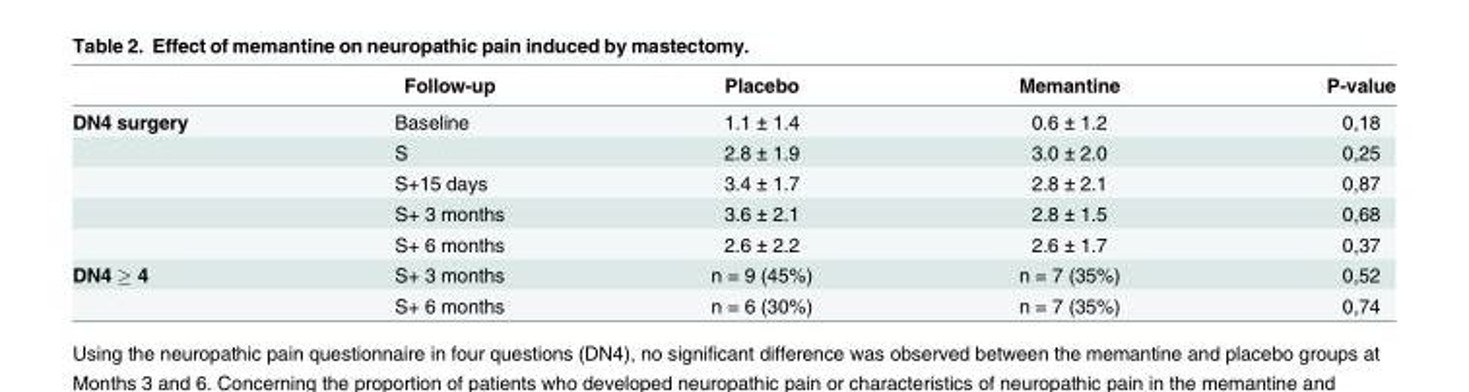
<table><thead><tr><td></td><td>Follow-up</td><td>Placebo</td><td>Memantine</td><td>P-value</td></tr></thead><tbody><tr><td rowspan="5">DN4 surgery</td><td>Baseline</td><td>1.1 ± 1.4</td><td>0.6 ± 1.2</td><td>0,18</td></tr><tr><td>S</td><td>2.8 ± 1.9</td><td>3.0 ± 2.0</td><td>0,25</td></tr><tr><td>S+15 days</td><td>3.4 ± 1.7</td><td>2.8 ± 2.1</td><td>0,87</td></tr><tr><td>S+ 3 months</td><td>3.6 ± 2.1</td><td>2.8 ± 1.5</td><td>0,68</td></tr><tr><td>S+ 6 months</td><td>2.6 ± 2.2</td><td>2.6 ± 1.7</td><td>0,37</td></tr><tr><td rowspan="2">DN4 ≥ 4</td><td>S+ 3 months</td><td>n = 9 (45%)</td><td>n = 7 (35%)</td><td>0,52</td></tr><tr><td>S+ 6 months</td><td>n = 6 (30%)</td><td>n = 7 (35%)</td><td>0,74</td></tr></tbody></table>